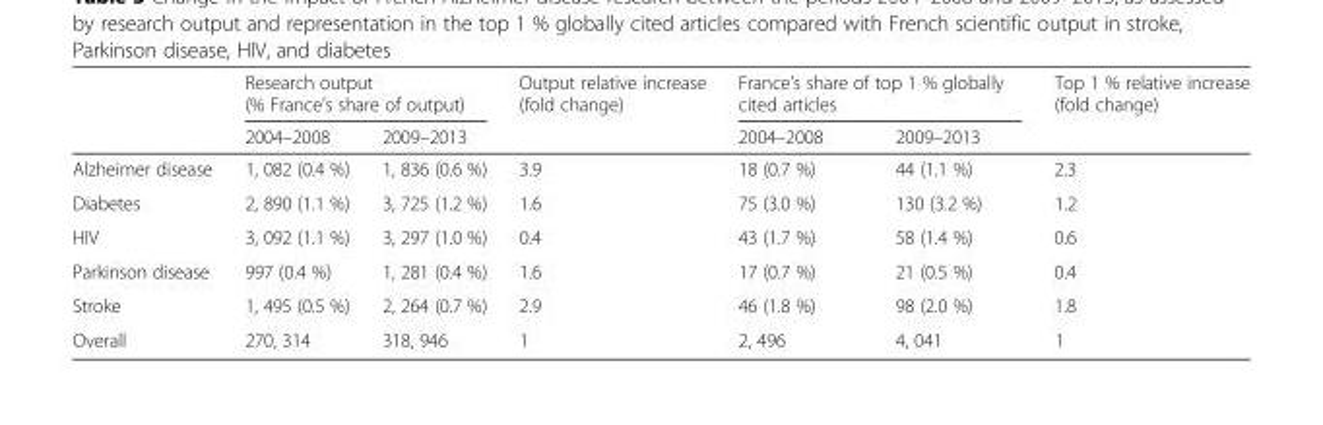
<table><thead><tr><td rowspan="2"></td><td colspan="2">Research output (% France’s share of output)</td><td rowspan="2">Output relative increase (fold change)</td><td colspan="2">France’s share of top 1 % globally cited articles</td><td rowspan="2">Top 1 % relative increase (fold change)</td></tr><tr><td>2004–2008</td><td>2009–2013</td><td>2004–2008</td><td>2009–2013</td></tr></thead><tbody><tr><td>Alzheimer disease</td><td>1, 082 (0.4 %)</td><td>1, 836 (0.6 %)</td><td>3.9</td><td>18 (0.7 %)</td><td>44 (1.1 %)</td><td>2.3</td></tr><tr><td>Diabetes</td><td>2, 890 (1.1 %)</td><td>3, 725 (1.2 %)</td><td>1.6</td><td>75 (3.0 %)</td><td>130 (3.2 %)</td><td>1.2</td></tr><tr><td>HIV</td><td>3, 092 (1.1 %)</td><td>3, 297 (1.0 %)</td><td>0.4</td><td>43 (1.7 %)</td><td>58 (1.4 %)</td><td>0.6</td></tr><tr><td>Parkinson disease</td><td>997 (0.4 %)</td><td>1, 281 (0.4 %)</td><td>1.6</td><td>17 (0.7 %)</td><td>21 (0.5 %)</td><td>0.4</td></tr><tr><td>Stroke</td><td>1, 495 (0.5 %)</td><td>2, 264 (0.7 %)</td><td>2.9</td><td>46 (1.8 %)</td><td>98 (2.0 %)</td><td>1.8</td></tr><tr><td>Overall</td><td>270, 314</td><td>318, 946</td><td>1</td><td>2, 496</td><td>4, 041</td><td>1</td></tr></tbody></table>